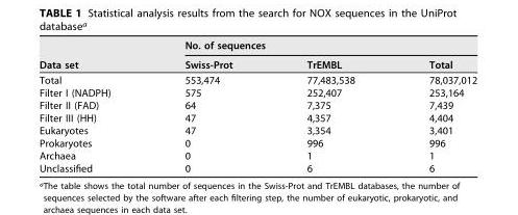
<table><thead><tr><td rowspan="2">Data set</td><td colspan="3">No. of sequences</td></tr><tr><td>Swiss-Prot</td><td>TrEMBL</td><td>Total</td></tr></thead><tbody><tr><td>Total</td><td>553,474</td><td>77,483,538</td><td>78,037,012</td></tr><tr><td>Filter I (NADPH)</td><td>575</td><td>252,407</td><td>253,164</td></tr><tr><td>Filter II (FAD)</td><td>64</td><td>7,375</td><td>7,439</td></tr><tr><td>Filter III (HH)</td><td>47</td><td>4,357</td><td>4,404</td></tr><tr><td>Eukaryotes</td><td>47</td><td>3,354</td><td>3,401</td></tr><tr><td>Prokaryotes</td><td>0</td><td>996</td><td>996</td></tr><tr><td>Archaea</td><td>0</td><td>1</td><td>1</td></tr><tr><td>Unclassified</td><td>0</td><td>6</td><td>6</td></tr></tbody></table>